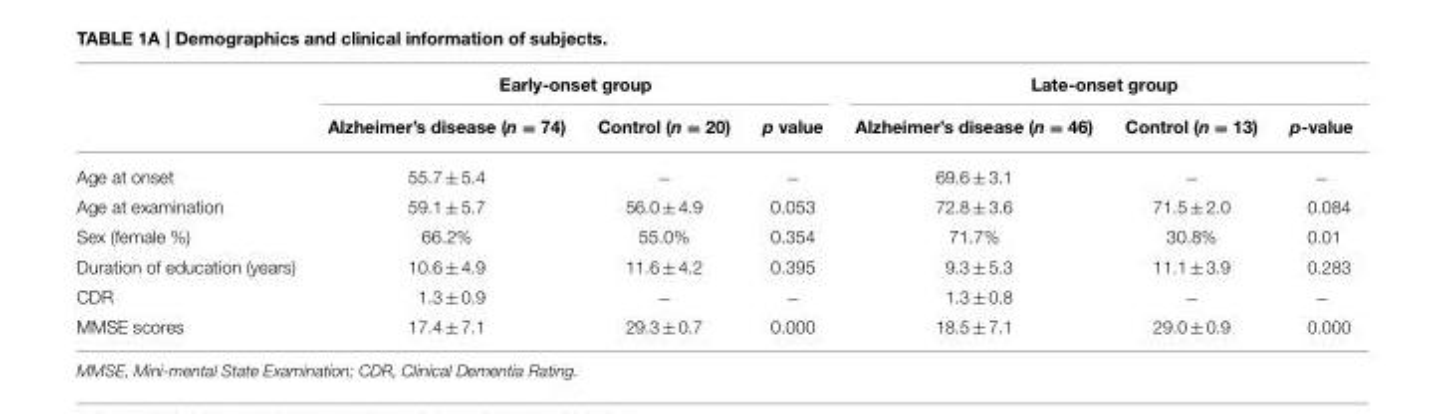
<table><thead><tr><td rowspan="2"></td><td colspan="3">Early-onset group</td><td colspan="3">Late-onset group</td></tr><tr><td>Alzheimer’s disease (n = 74)</td><td>Control (n = 20)</td><td>p value</td><td>Alzheimer’s disease (n = 46)</td><td>Control (n = 13)</td><td>p-value</td></tr></thead><tbody><tr><td>Age at onset</td><td>55.7 ± 5.4</td><td>−</td><td>−</td><td>69.6 ± 3.1</td><td>−</td><td>−</td></tr><tr><td>Age at examination</td><td>59.1 ± 5.7</td><td>56.0 ± 4.9</td><td>0.053</td><td>72.8 ± 3.6</td><td>71.5 ± 2.0</td><td>0.084</td></tr><tr><td>Sex (female %)</td><td>66.2%</td><td>55.0%</td><td>0.354</td><td>71.7%</td><td>30.8%</td><td>0.01</td></tr><tr><td>Duration of education (years)</td><td>10.6 ± 4.9</td><td>11.6 ± 4.2</td><td>0.395</td><td>9.3 ± 5.3</td><td>11.1 ± 3.9</td><td>0.283</td></tr><tr><td>CDR</td><td>1.3 ± 0.9</td><td>−</td><td>−</td><td>1.3 ± 0.8</td><td>−</td><td>−</td></tr><tr><td>MMSE scores</td><td>17.4 ± 7.1</td><td>29.3 ± 0.7</td><td>0.000</td><td>18.5 ± 7.1</td><td>29.0 ± 0.9</td><td>0.000</td></tr></tbody></table>